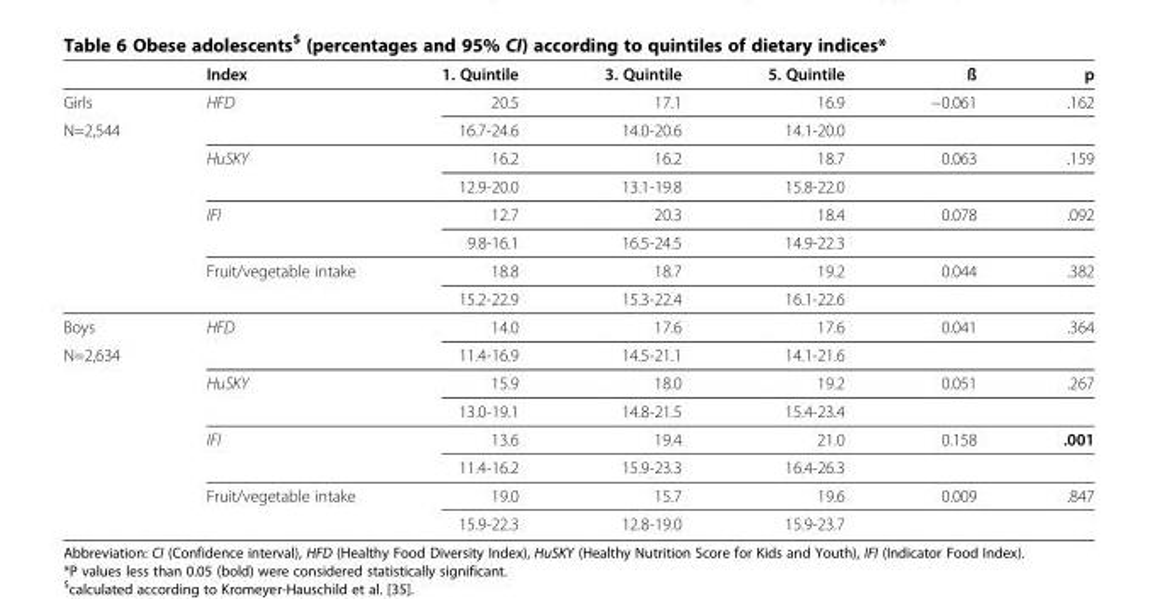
<table><thead><tr><td></td><td>Index</td><td>1. Quintile</td><td>3. Quintile</td><td>5. Quintile</td><td>ß</td><td>p</td></tr></thead><tbody><tr><td>Girls</td><td rowspan="2">HFD</td><td>20.5</td><td>17.1</td><td>16.9</td><td>−0.061</td><td>.162</td></tr><tr><td rowspan="7">N=2,544</td><td>16.7-24.6</td><td>14.0-20.6</td><td>14.1-20.0</td><td></td><td></td></tr><tr><td rowspan="2">HuSKY</td><td>16.2</td><td>16.2</td><td>18.7</td><td>0.063</td><td>.159</td></tr><tr><td>12.9-20.0</td><td>13.1-19.8</td><td>15.8-22.0</td><td></td><td></td></tr><tr><td rowspan="2">IFI</td><td>12.7</td><td>20.3</td><td>18.4</td><td>0.078</td><td>.092</td></tr><tr><td>9.8-16.1</td><td>16.5-24.5</td><td>14.9-22.3</td><td></td><td></td></tr><tr><td>Fruit/vegetable intake</td><td>18.8</td><td>18.7</td><td>19.2</td><td>0.044</td><td>.382</td></tr><tr><td></td><td>15.2-22.9</td><td>15.3-22.4</td><td>16.1-22.6</td><td></td><td></td></tr><tr><td>Boys</td><td rowspan="2">HFD</td><td>14.0</td><td>17.6</td><td>17.6</td><td>0.041</td><td>.364</td></tr><tr><td rowspan="7">N=2,634</td><td>11.4-16.9</td><td>14.5-21.1</td><td>14.1-21.6</td><td></td><td></td></tr><tr><td rowspan="2">HuSKY</td><td>15.9</td><td>18.0</td><td>19.2</td><td>0.051</td><td>.267</td></tr><tr><td>13.0-19.1</td><td>14.8-21.5</td><td>15.4-23.4</td><td></td><td></td></tr><tr><td rowspan="2">IFI</td><td>13.6</td><td>19.4</td><td>21.0</td><td>0.158</td><td>.001</td></tr><tr><td>11.4-16.2</td><td>15.9-23.3</td><td>16.4-26.3</td><td></td><td></td></tr><tr><td>Fruit/vegetable intake</td><td>19.0</td><td>15.7</td><td>19.6</td><td>0.009</td><td>.847</td></tr><tr><td></td><td>15.9-22.3</td><td>12.8-19.0</td><td>15.9-23.7</td><td></td><td></td></tr></tbody></table>